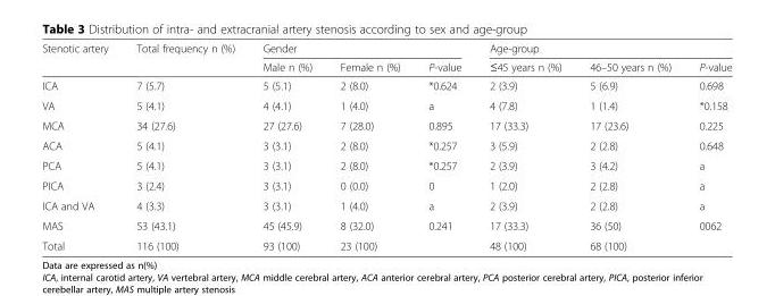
<table><thead><tr><td rowspan="2">Stenotic artery</td><td rowspan="2">Total frequency n (%)</td><td colspan="3">Gender</td><td colspan="3">Age-group</td></tr><tr><td>Male n (%)</td><td>Female n (%)</td><td>P-value</td><td>≤45 years n (%)</td><td>46–50 years n (%)</td><td>P-value</td></tr></thead><tbody><tr><td>ICA</td><td>7 (5.7)</td><td>5 (5.1)</td><td>2 (8.0)</td><td>*0.624</td><td>2 (3.9)</td><td>5 (6.9)</td><td>0.698</td></tr><tr><td>VA</td><td>5 (4.1)</td><td>4 (4.1)</td><td>1 (4.0)</td><td>a</td><td>4 (7.8)</td><td>1 (1.4)</td><td>*0.158</td></tr><tr><td>MCA</td><td>34 (27.6)</td><td>27 (27.6)</td><td>7 (28.0)</td><td>0.895</td><td>17 (33.3)</td><td>17 (23.6)</td><td>0.225</td></tr><tr><td>ACA</td><td>5 (4.1)</td><td>3 (3.1)</td><td>2 (8.0)</td><td>*0.257</td><td>3 (5.9)</td><td>2 (2.8)</td><td>0.648</td></tr><tr><td>PCA</td><td>5 (4.1)</td><td>3 (3.1)</td><td>2 (8.0)</td><td>*0.257</td><td>2 (3.9)</td><td>3 (4.2)</td><td>a</td></tr><tr><td>PICA</td><td>3 (2.4)</td><td>3 (3.1)</td><td>0 (0.0)</td><td>0</td><td>1 (2.0)</td><td>2 (2.8)</td><td>a</td></tr><tr><td>ICA and VA</td><td>4 (3.3)</td><td>3 (3.1)</td><td>1 (4.0)</td><td>a</td><td>2 (3.9)</td><td>2 (2.8)</td><td>a</td></tr><tr><td>MAS</td><td>53 (43.1)</td><td>45 (45.9)</td><td>8 (32.0)</td><td>0.241</td><td>17 (33.3)</td><td>36 (50)</td><td>0062</td></tr><tr><td>Total</td><td>116 (100)</td><td>93 (100)</td><td>23 (100)</td><td></td><td>48 (100)</td><td>68 (100)</td><td></td></tr></tbody></table>